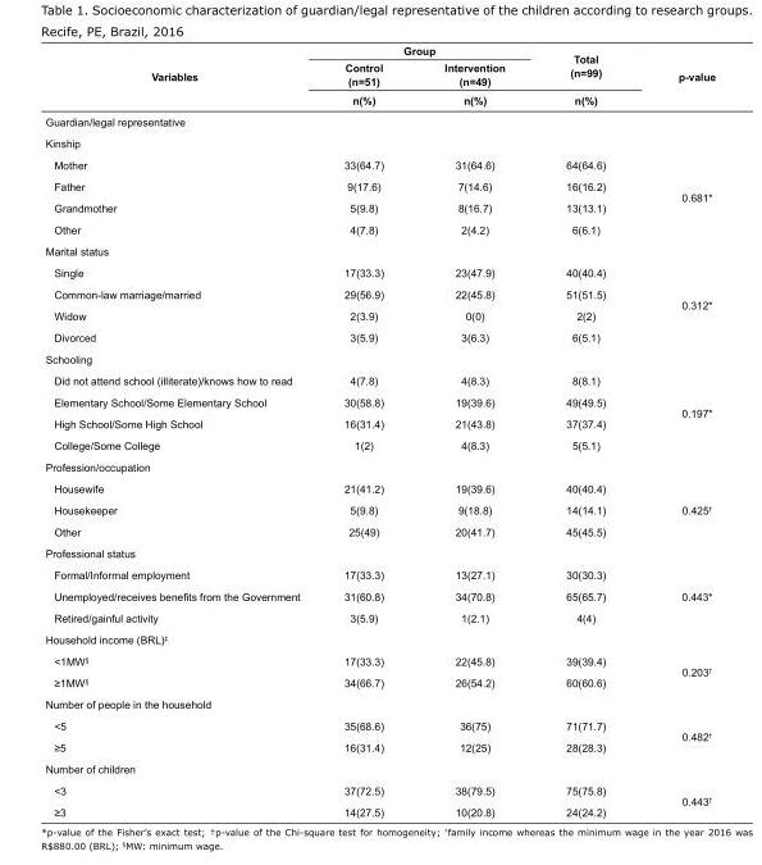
<table><tbody><tr><td rowspan="3">Variables</td><td colspan="2">Group</td><td rowspan="2">Total (n=99)</td><td rowspan="3">p-value</td></tr><tr><td>Control (n=51)</td><td>Intervention (n=49)</td></tr><tr><td>n(%)</td><td>n(%)</td><td>n(%)</td></tr><tr><td colspan="5">Guardian/legal representative</td></tr><tr><td colspan="5">Kinship</td></tr><tr><td>Mother</td><td>33(64.7)</td><td>31(64.6)</td><td>64(64.6)</td><td rowspan="4">0.681*</td></tr><tr><td>Father</td><td>9(17.6)</td><td>7(14.6)</td><td>16(16.2)</td></tr><tr><td>Grandmother</td><td>5(9.8)</td><td>8(16.7)</td><td>13(13.1)</td></tr><tr><td>Other</td><td>4(7.8)</td><td>2(4.2)</td><td>6(6.1)</td></tr><tr><td colspan="5">Marital status</td></tr><tr><td>Single</td><td>17(33.3)</td><td>23(47.9)</td><td>40(40.4)</td><td rowspan="4">0.312*</td></tr><tr><td>Common-law marriage/married</td><td>29(56.9)</td><td>22(45.8)</td><td>51(51.5)</td></tr><tr><td>Widow</td><td>2(3.9)</td><td>0(0)</td><td>2(2)</td></tr><tr><td>Divorced</td><td>3(5.9)</td><td>3(6.3)</td><td>6(5.1)</td></tr><tr><td colspan="5">Schooling</td></tr><tr><td>Did not attend school (illiterate)/knows how to read</td><td>4(7.8)</td><td>4(8.3)</td><td>8(8.1)</td><td rowspan="4">0.197*</td></tr><tr><td>Elementary School/Some Elementary School</td><td>30(58.8)</td><td>19(39.6)</td><td>49(49.5)</td></tr><tr><td>High School/Some High School</td><td>16(31.4)</td><td>21(43.8)</td><td>37(37.4)</td></tr><tr><td>College/Some College</td><td>1(2)</td><td>4(8.3)</td><td>5(5.1)</td></tr><tr><td colspan="5">Profession/occupation</td></tr><tr><td>Housewife</td><td>21(41.2)</td><td>19(39.6)</td><td>40(40.4)</td><td rowspan="3">0.425<sup>†</sup></td></tr><tr><td>Housekeeper</td><td>5(9.8)</td><td>9(18.8)</td><td>14(14.1)</td></tr><tr><td>Other</td><td>25(49)</td><td>20(41.7)</td><td>45(45.5)</td></tr><tr><td colspan="5">Professional status</td></tr><tr><td>Formal/Informal employment</td><td>17(33.3)</td><td>13(27.1)</td><td>30(30.3)</td><td rowspan="3">0.443*</td></tr><tr><td>Unemployed/receives benefits from the Government</td><td>31(60.8)</td><td>34(70.8)</td><td>65(65.7)</td></tr><tr><td>Retired/gainful activity</td><td>3(5.9)</td><td>1(2.1)</td><td>4(4)</td></tr><tr><td colspan="5">Household income (BRL)<sup>‡</sup></td></tr><tr><td>&lt;1MW<sup>§</sup></td><td>17(33.3)</td><td>22(45.8)</td><td>39(39.4)</td><td rowspan="2">0.203<sup>†</sup></td></tr><tr><td>≥1MW<sup>§</sup></td><td>34(66.7)</td><td>26(54.2)</td><td>60(60.6)</td></tr><tr><td colspan="5">Number of people in the household</td></tr><tr><td>&lt;5</td><td>35(68.6)</td><td>36(75)</td><td>71(71.7)</td><td rowspan="2">0.482<sup>†</sup></td></tr><tr><td>≥5</td><td>16(31.4)</td><td>12(25)</td><td>28(28.3)</td></tr><tr><td colspan="5">Number of children</td></tr><tr><td>&lt;3</td><td>37(72.5)</td><td>38(79.5)</td><td>75(75.8)</td><td rowspan="2">0.443<sup>†</sup></td></tr><tr><td>≥3</td><td>14(27.5)</td><td>10(20.8)</td><td>24(24.2)</td></tr></tbody></table>